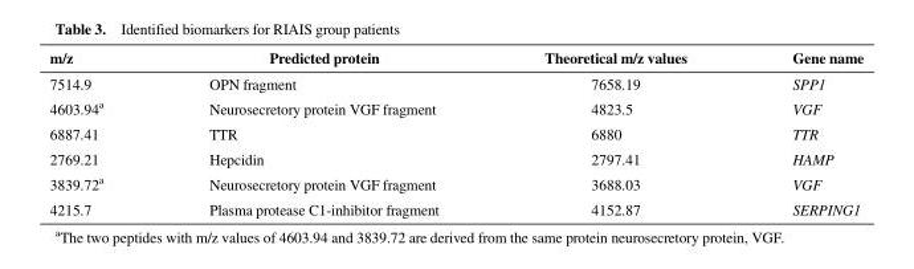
<table><thead><tr><td>m/z</td><td>Predicted protein</td><td>Theoretical m/z values</td><td>Gene name</td></tr></thead><tbody><tr><td>7514.9</td><td>OPN fragment</td><td>7658.19</td><td>SPP1</td></tr><tr><td>4603.94<sup>a</sup></td><td>Neurosecretory protein VGF fragment</td><td>4823.5</td><td>VGF</td></tr><tr><td>6887.41</td><td>TTR</td><td>6880</td><td>TTR</td></tr><tr><td>2769.21</td><td>Hepcidin</td><td>2797.41</td><td>HAMP</td></tr><tr><td>3839.72<sup>a</sup></td><td>Neurosecretory protein VGF fragment</td><td>3688.03</td><td>VGF</td></tr><tr><td>4215.7</td><td>Plasma protease C1-inhibitor fragment</td><td>4152.87</td><td>SERPING1</td></tr></tbody></table>